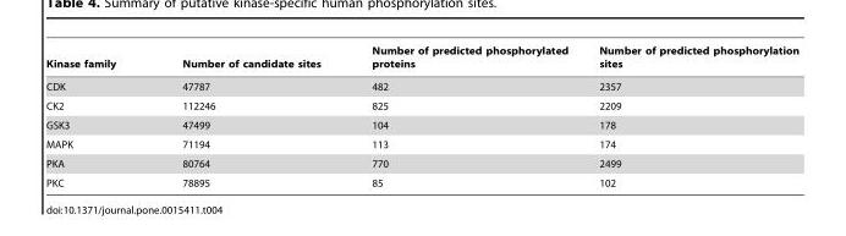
<table><thead><tr><td>Kinase family</td><td>Number of candidate sites</td><td>Number of predicted phosphorylated proteins</td><td>Number of predicted phosphorylation sites</td></tr></thead><tbody><tr><td>CDK</td><td>47787</td><td>482</td><td>2357</td></tr><tr><td>CK2</td><td>112246</td><td>825</td><td>2209</td></tr><tr><td>GSK3</td><td>47499</td><td>104</td><td>178</td></tr><tr><td>MAPK</td><td>71194</td><td>113</td><td>174</td></tr><tr><td>PKA</td><td>80764</td><td>770</td><td>2499</td></tr><tr><td>PKC</td><td>78895</td><td>85</td><td>102</td></tr></tbody></table>